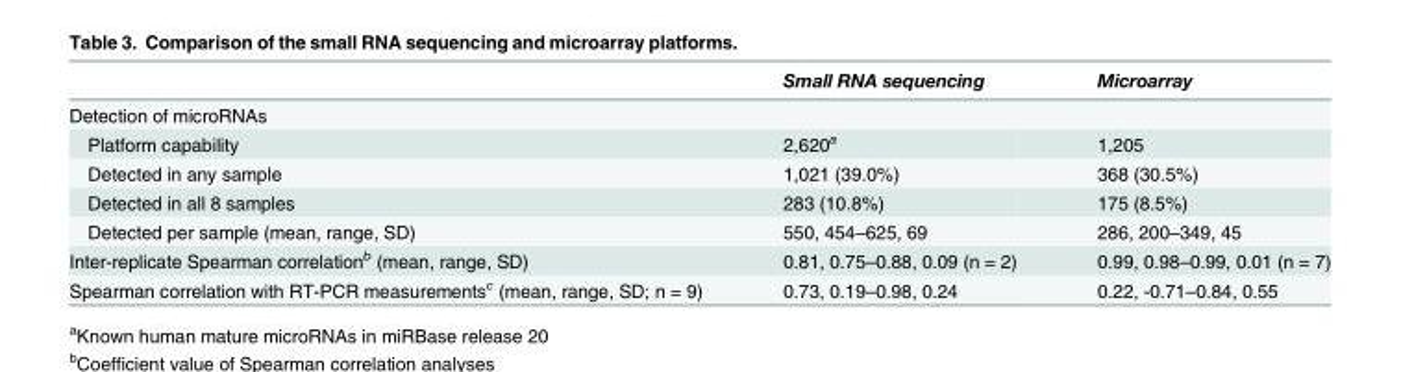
<table><thead><tr><td></td><td>Small RNA sequencing</td><td>Microarray</td></tr></thead><tbody><tr><td colspan="3">Detection of microRNAs</td></tr><tr><td>Platform capability</td><td>2,620<sup>a</sup></td><td>1,205</td></tr><tr><td>Detected in any sample</td><td>1,021 (39.0%)</td><td>368 (30.5%)</td></tr><tr><td>Detected in all 8 samples</td><td>283 (10.8%)</td><td>175 (8.5%)</td></tr><tr><td>Detected per sample (mean, range, SD)</td><td>550, 454–625, 69</td><td>286, 200–349, 45</td></tr><tr><td>Inter-replicate Spearman correlation<sup>b</sup> (mean, range, SD)</td><td>0.81, 0.75–0.88, 0.09 (n = 2)</td><td>0.99, 0.98–0.99, 0.01 (n = 7)</td></tr><tr><td>Spearman correlation with RT-PCR measurements<sup>c</sup> (mean, range, SD; n = 9)</td><td>0.73, 0.19–0.98, 0.24</td><td>0.22, -0.71–0.84, 0.55</td></tr></tbody></table>